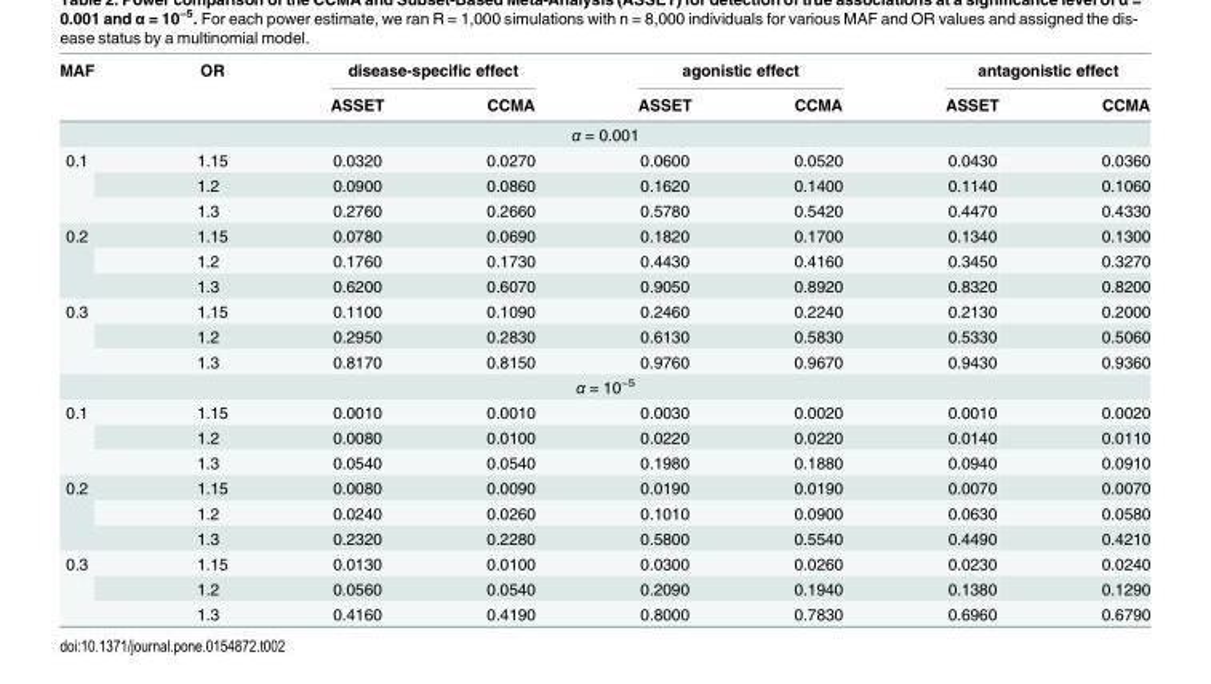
<table><thead><tr><td rowspan="2">MAF</td><td rowspan="2">OR</td><td colspan="2">disease-specific effect</td><td colspan="2">agonistic effect</td><td colspan="2">antagonistic effect</td></tr><tr><td>ASSET</td><td>CCMA</td><td>ASSET</td><td>CCMA</td><td>ASSET</td><td>CCMA</td></tr></thead><tbody><tr><td colspan="8">α = 0.001</td></tr><tr><td rowspan="3">0.1</td><td>1.15</td><td>0.0320</td><td>0.0270</td><td>0.0600</td><td>0.0520</td><td>0.0430</td><td>0.0360</td></tr><tr><td>1.2</td><td>0.0900</td><td>0.0860</td><td>0.1620</td><td>0.1400</td><td>0.1140</td><td>0.1060</td></tr><tr><td>1.3</td><td>0.2760</td><td>0.2660</td><td>0.5780</td><td>0.5420</td><td>0.4470</td><td>0.4330</td></tr><tr><td rowspan="3">0.2</td><td>1.15</td><td>0.0780</td><td>0.0690</td><td>0.1820</td><td>0.1700</td><td>0.1340</td><td>0.1300</td></tr><tr><td>1.2</td><td>0.1760</td><td>0.1730</td><td>0.4430</td><td>0.4160</td><td>0.3450</td><td>0.3270</td></tr><tr><td>1.3</td><td>0.6200</td><td>0.6070</td><td>0.9050</td><td>0.8920</td><td>0.8320</td><td>0.8200</td></tr><tr><td rowspan="3">0.3</td><td>1.15</td><td>0.1100</td><td>0.1090</td><td>0.2460</td><td>0.2240</td><td>0.2130</td><td>0.2000</td></tr><tr><td>1.2</td><td>0.2950</td><td>0.2830</td><td>0.6130</td><td>0.5830</td><td>0.5330</td><td>0.5060</td></tr><tr><td>1.3</td><td>0.8170</td><td>0.8150</td><td>0.9760</td><td>0.9670</td><td>0.9430</td><td>0.9360</td></tr><tr><td colspan="8">α = 10<sup>−5</sup></td></tr><tr><td rowspan="3">0.1</td><td>1.15</td><td>0.0010</td><td>0.0010</td><td>0.0030</td><td>0.0020</td><td>0.0010</td><td>0.0020</td></tr><tr><td>1.2</td><td>0.0080</td><td>0.0100</td><td>0.0220</td><td>0.0220</td><td>0.0140</td><td>0.0110</td></tr><tr><td>1.3</td><td>0.0540</td><td>0.0540</td><td>0.1980</td><td>0.1880</td><td>0.0940</td><td>0.0910</td></tr><tr><td rowspan="3">0.2</td><td>1.15</td><td>0.0080</td><td>0.0090</td><td>0.0190</td><td>0.0190</td><td>0.0070</td><td>0.0070</td></tr><tr><td>1.2</td><td>0.0240</td><td>0.0260</td><td>0.1010</td><td>0.0900</td><td>0.0630</td><td>0.0580</td></tr><tr><td>1.3</td><td>0.2320</td><td>0.2280</td><td>0.5800</td><td>0.5540</td><td>0.4490</td><td>0.4210</td></tr><tr><td rowspan="3">0.3</td><td>1.15</td><td>0.0130</td><td>0.0100</td><td>0.0300</td><td>0.0260</td><td>0.0230</td><td>0.0240</td></tr><tr><td>1.2</td><td>0.0560</td><td>0.0540</td><td>0.2090</td><td>0.1940</td><td>0.1380</td><td>0.1290</td></tr><tr><td>1.3</td><td>0.4160</td><td>0.4190</td><td>0.8000</td><td>0.7830</td><td>0.6960</td><td>0.6790</td></tr></tbody></table>